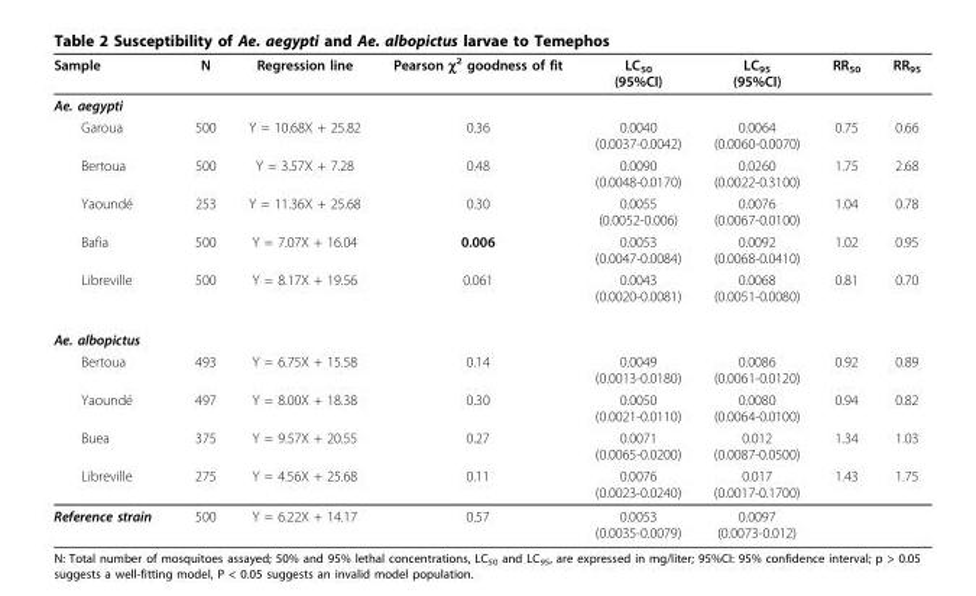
<table><thead><tr><td>Sample</td><td>N</td><td>Regression line</td><td>Pearson χ<sup>2</sup> goodness of fit</td><td>LC<sub>50</sub> (95%CI)</td><td>LC<sub>95</sub> (95%CI)</td><td>RR<sub>50</sub></td><td>RR<sub>95</sub></td></tr></thead><tbody><tr><td colspan="8">Ae. aegypti</td></tr><tr><td>Garoua</td><td>500</td><td>Y = 10.68X + 25.82</td><td>0.36</td><td>0.0040 (0.0037-0.0042)</td><td>0.0064 (0.0060-0.0070)</td><td>0.75</td><td>0.66</td></tr><tr><td>Bertoua</td><td>500</td><td>Y = 3.57X + 7.28</td><td>0.48</td><td>0.0090 (0.0048-0.0170)</td><td>0.0260 (0.0022-0.3100)</td><td>1.75</td><td>2.68</td></tr><tr><td>Yaoundé</td><td>253</td><td>Y = 11.36X + 25.68</td><td>0.30</td><td>0.0055 (0.0052-0.006)</td><td>0.0076 (0.0067-0.0100)</td><td>1.04</td><td>0.78</td></tr><tr><td>Bafia</td><td>500</td><td>Y = 7.07X + 16.04</td><td>0.006</td><td>0.0053 (0.0047-0.0084)</td><td>0.0092 (0.0068-0.0410)</td><td>1.02</td><td>0.95</td></tr><tr><td>Libreville</td><td>500</td><td>Y = 8.17X + 19.56</td><td>0.061</td><td>0.0043 (0.0020-0.0081)</td><td>0.0068 (0.0051-0.0080)</td><td>0.81</td><td>0.70</td></tr><tr><td colspan="8">Ae. albopictus</td></tr><tr><td>Bertoua</td><td>493</td><td>Y = 6.75X + 15.58</td><td>0.14</td><td>0.0049 (0.0013-0.0180)</td><td>0.0086 (0.0061-0.0120)</td><td>0.92</td><td>0.89</td></tr><tr><td>Yaoundé</td><td>497</td><td>Y = 8.00X + 18.38</td><td>0.30</td><td>0.0050 (0.0021-0.0110)</td><td>0.0080 (0.0064-0.0100)</td><td>0.94</td><td>0.82</td></tr><tr><td>Buea</td><td>375</td><td>Y = 9.57X + 20.55</td><td>0.27</td><td>0.0071 (0.0065-0.0200)</td><td>0.012 (0.0087-0.0500)</td><td>1.34</td><td>1.03</td></tr><tr><td>Libreville</td><td>275</td><td>Y = 4.56X + 25.68</td><td>0.11</td><td>0.0076 (0.0023-0.0240)</td><td>0.017 (0.0017-0.1700)</td><td>1.43</td><td>1.75</td></tr><tr><td>Reference strain</td><td>500</td><td>Y = 6.22X + 14.17</td><td>0.57</td><td>0.0053 (0.0035-0.0079)</td><td>0.0097 (0.0073-0.012)</td><td></td><td></td></tr></tbody></table>